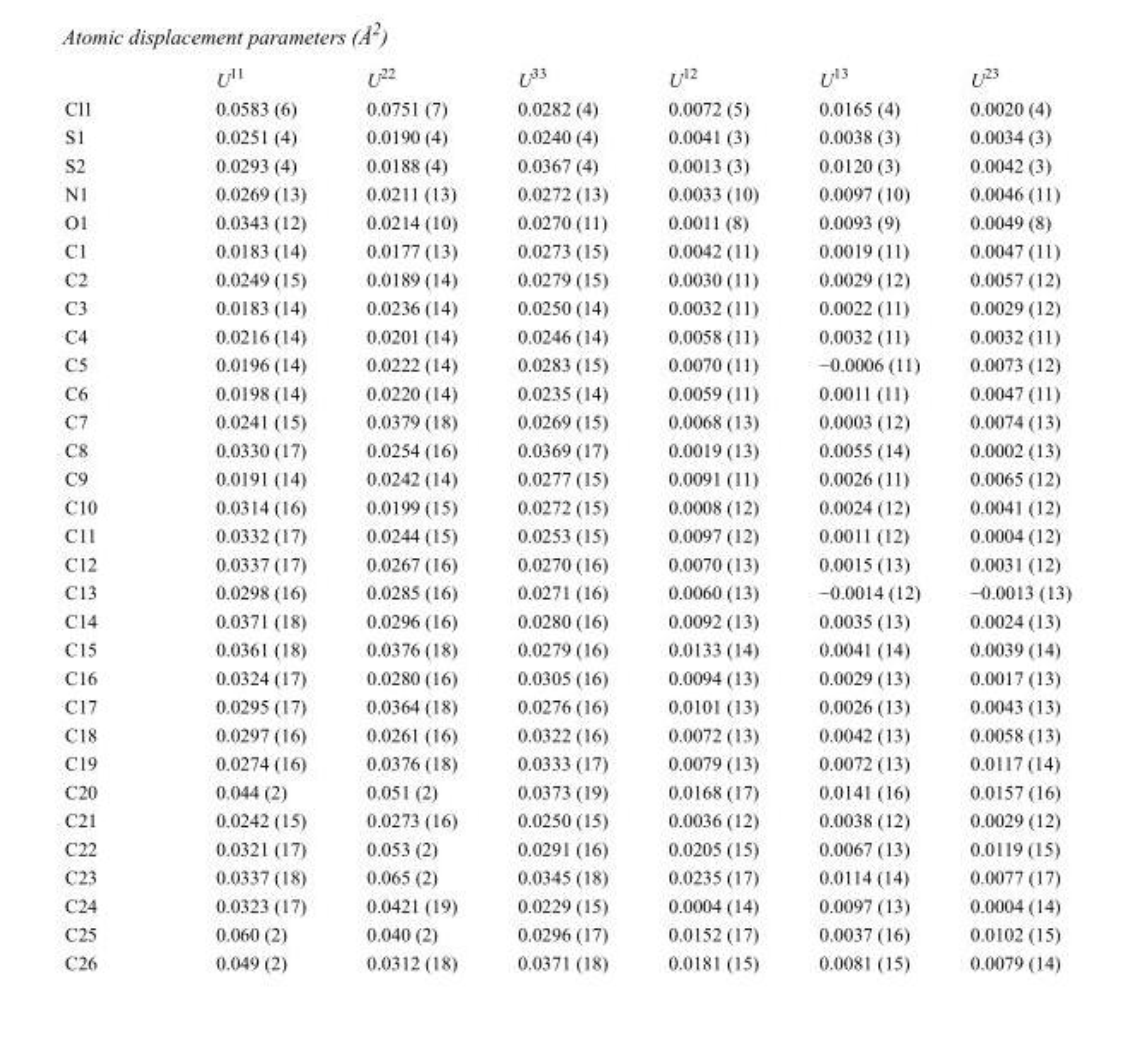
<table><thead><tr><td></td><td>U<sup>11</sup></td><td>U<sup>22</sup></td><td>U<sup>33</sup></td><td>U<sup>12</sup></td><td>U<sup>13</sup></td><td>U<sup>23</sup></td></tr></thead><tbody><tr><td>Cl1</td><td>0.0583 (6)</td><td>0.0751 (7)</td><td>0.0282 (4)</td><td>0.0072 (5)</td><td>0.0165 (4)</td><td>0.0020 (4)</td></tr><tr><td>S1</td><td>0.0251 (4)</td><td>0.0190 (4)</td><td>0.0240 (4)</td><td>0.0041 (3)</td><td>0.0038 (3)</td><td>0.0034 (3)</td></tr><tr><td>S2</td><td>0.0293 (4)</td><td>0.0188 (4)</td><td>0.0367 (4)</td><td>0.0013 (3)</td><td>0.0120 (3)</td><td>0.0042 (3)</td></tr><tr><td>N1</td><td>0.0269 (13)</td><td>0.0211 (13)</td><td>0.0272 (13)</td><td>0.0033 (10)</td><td>0.0097 (10)</td><td>0.0046 (11)</td></tr><tr><td>O1</td><td>0.0343 (12)</td><td>0.0214 (10)</td><td>0.0270 (11)</td><td>0.0011 (8)</td><td>0.0093 (9)</td><td>0.0049 (8)</td></tr><tr><td>C1</td><td>0.0183 (14)</td><td>0.0177 (13)</td><td>0.0273 (15)</td><td>0.0042 (11)</td><td>0.0019 (11)</td><td>0.0047 (11)</td></tr><tr><td>C2</td><td>0.0249 (15)</td><td>0.0189 (14)</td><td>0.0279 (15)</td><td>0.0030 (11)</td><td>0.0029 (12)</td><td>0.0057 (12)</td></tr><tr><td>C3</td><td>0.0183 (14)</td><td>0.0236 (14)</td><td>0.0250 (14)</td><td>0.0032 (11)</td><td>0.0022 (11)</td><td>0.0029 (12)</td></tr><tr><td>C4</td><td>0.0216 (14)</td><td>0.0201 (14)</td><td>0.0246 (14)</td><td>0.0058 (11)</td><td>0.0032 (11)</td><td>0.0032 (11)</td></tr><tr><td>C5</td><td>0.0196 (14)</td><td>0.0222 (14)</td><td>0.0283 (15)</td><td>0.0070 (11)</td><td>−0.0006 (11)</td><td>0.0073 (12)</td></tr><tr><td>C6</td><td>0.0198 (14)</td><td>0.0220 (14)</td><td>0.0235 (14)</td><td>0.0059 (11)</td><td>0.0011 (11)</td><td>0.0047 (11)</td></tr><tr><td>C7</td><td>0.0241 (15)</td><td>0.0379 (18)</td><td>0.0269 (15)</td><td>0.0068 (13)</td><td>0.0003 (12)</td><td>0.0074 (13)</td></tr><tr><td>C8</td><td>0.0330 (17)</td><td>0.0254 (16)</td><td>0.0369 (17)</td><td>0.0019 (13)</td><td>0.0055 (14)</td><td>0.0002 (13)</td></tr><tr><td>C9</td><td>0.0191 (14)</td><td>0.0242 (14)</td><td>0.0277 (15)</td><td>0.0091 (11)</td><td>0.0026 (11)</td><td>0.0065 (12)</td></tr><tr><td>C10</td><td>0.0314 (16)</td><td>0.0199 (15)</td><td>0.0272 (15)</td><td>0.0008 (12)</td><td>0.0024 (12)</td><td>0.0041 (12)</td></tr><tr><td>C11</td><td>0.0332 (17)</td><td>0.0244 (15)</td><td>0.0253 (15)</td><td>0.0097 (12)</td><td>0.0011 (12)</td><td>0.0004 (12)</td></tr><tr><td>C12</td><td>0.0337 (17)</td><td>0.0267 (16)</td><td>0.0270 (16)</td><td>0.0070 (13)</td><td>0.0015 (13)</td><td>0.0031 (12)</td></tr><tr><td>C13</td><td>0.0298 (16)</td><td>0.0285 (16)</td><td>0.0271 (16)</td><td>0.0060 (13)</td><td>−0.0014 (12)</td><td>−0.0013 (13)</td></tr><tr><td>C14</td><td>0.0371 (18)</td><td>0.0296 (16)</td><td>0.0280 (16)</td><td>0.0092 (13)</td><td>0.0035 (13)</td><td>0.0024 (13)</td></tr><tr><td>C15</td><td>0.0361 (18)</td><td>0.0376 (18)</td><td>0.0279 (16)</td><td>0.0133 (14)</td><td>0.0041 (14)</td><td>0.0039 (14)</td></tr><tr><td>C16</td><td>0.0324 (17)</td><td>0.0280 (16)</td><td>0.0305 (16)</td><td>0.0094 (13)</td><td>0.0029 (13)</td><td>0.0017 (13)</td></tr><tr><td>C17</td><td>0.0295 (17)</td><td>0.0364 (18)</td><td>0.0276 (16)</td><td>0.0101 (13)</td><td>0.0026 (13)</td><td>0.0043 (13)</td></tr><tr><td>C18</td><td>0.0297 (16)</td><td>0.0261 (16)</td><td>0.0322 (16)</td><td>0.0072 (13)</td><td>0.0042 (13)</td><td>0.0058 (13)</td></tr><tr><td>C19</td><td>0.0274 (16)</td><td>0.0376 (18)</td><td>0.0333 (17)</td><td>0.0079 (13)</td><td>0.0072 (13)</td><td>0.0117 (14)</td></tr><tr><td>C20</td><td>0.044 (2)</td><td>0.051 (2)</td><td>0.0373 (19)</td><td>0.0168 (17)</td><td>0.0141 (16)</td><td>0.0157 (16)</td></tr><tr><td>C21</td><td>0.0242 (15)</td><td>0.0273 (16)</td><td>0.0250 (15)</td><td>0.0036 (12)</td><td>0.0038 (12)</td><td>0.0029 (12)</td></tr><tr><td>C22</td><td>0.0321 (17)</td><td>0.053 (2)</td><td>0.0291 (16)</td><td>0.0205 (15)</td><td>0.0067 (13)</td><td>0.0119 (15)</td></tr><tr><td>C23</td><td>0.0337 (18)</td><td>0.065 (2)</td><td>0.0345 (18)</td><td>0.0235 (17)</td><td>0.0114 (14)</td><td>0.0077 (17)</td></tr><tr><td>C24</td><td>0.0323 (17)</td><td>0.0421 (19)</td><td>0.0229 (15)</td><td>0.0004 (14)</td><td>0.0097 (13)</td><td>0.0004 (14)</td></tr><tr><td>C25</td><td>0.060 (2)</td><td>0.040 (2)</td><td>0.0296 (17)</td><td>0.0152 (17)</td><td>0.0037 (16)</td><td>0.0102 (15)</td></tr><tr><td>C26</td><td>0.049 (2)</td><td>0.0312 (18)</td><td>0.0371 (18)</td><td>0.0181 (15)</td><td>0.0081 (15)</td><td>0.0079 (14)</td></tr></tbody></table>